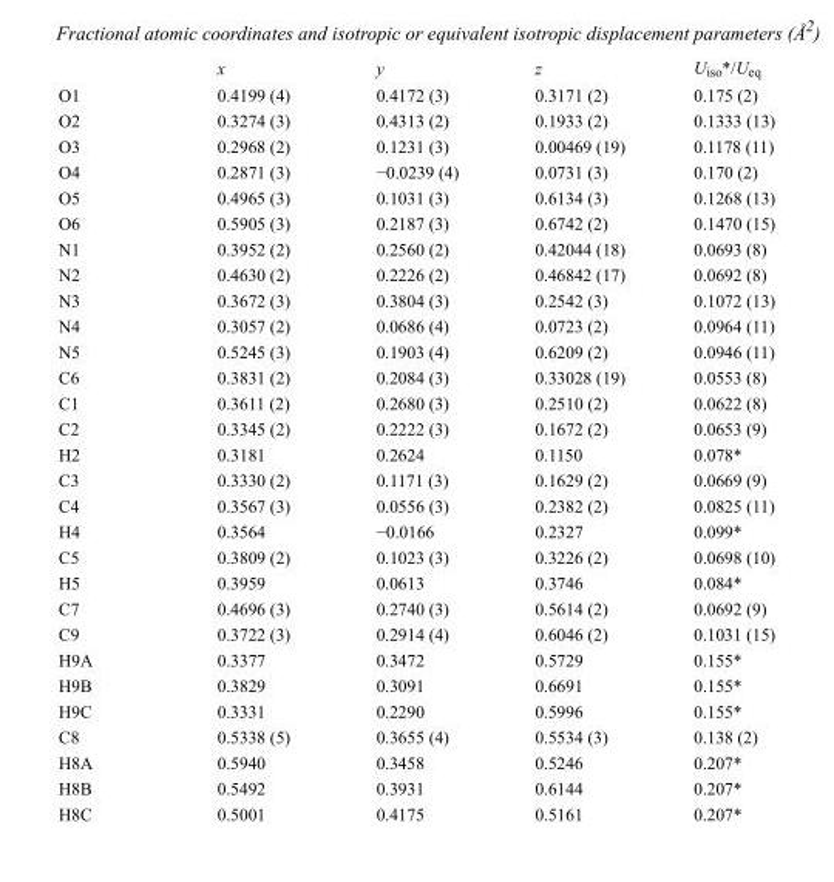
<table><thead><tr><td></td><td>x</td><td>y</td><td>z</td><td>U<sub>iso</sub>*/U<sub>eq</sub></td></tr></thead><tbody><tr><td>O1</td><td>0.4199 (4)</td><td>0.4172 (3)</td><td>0.3171 (2)</td><td>0.175 (2)</td></tr><tr><td>O2</td><td>0.3274 (3)</td><td>0.4313 (2)</td><td>0.1933 (2)</td><td>0.1333 (13)</td></tr><tr><td>O3</td><td>0.2968 (2)</td><td>0.1231 (3)</td><td>0.00469 (19)</td><td>0.1178 (11)</td></tr><tr><td>O4</td><td>0.2871 (3)</td><td>−0.0239 (4)</td><td>0.0731 (3)</td><td>0.170 (2)</td></tr><tr><td>O5</td><td>0.4965 (3)</td><td>0.1031 (3)</td><td>0.6134 (3)</td><td>0.1268 (13)</td></tr><tr><td>O6</td><td>0.5905 (3)</td><td>0.2187 (3)</td><td>0.6742 (2)</td><td>0.1470 (15)</td></tr><tr><td>N1</td><td>0.3952 (2)</td><td>0.2560 (2)</td><td>0.42044 (18)</td><td>0.0693 (8)</td></tr><tr><td>N2</td><td>0.4630 (2)</td><td>0.2226 (2)</td><td>0.46842 (17)</td><td>0.0692 (8)</td></tr><tr><td>N3</td><td>0.3672 (3)</td><td>0.3804 (3)</td><td>0.2542 (3)</td><td>0.1072 (13)</td></tr><tr><td>N4</td><td>0.3057 (2)</td><td>0.0686 (4)</td><td>0.0723 (2)</td><td>0.0964 (11)</td></tr><tr><td>N5</td><td>0.5245 (3)</td><td>0.1903 (4)</td><td>0.6209 (2)</td><td>0.0946 (11)</td></tr><tr><td>C6</td><td>0.3831 (2)</td><td>0.2084 (3)</td><td>0.33028 (19)</td><td>0.0553 (8)</td></tr><tr><td>C1</td><td>0.3611 (2)</td><td>0.2680 (3)</td><td>0.2510 (2)</td><td>0.0622 (8)</td></tr><tr><td>C2</td><td>0.3345 (2)</td><td>0.2222 (3)</td><td>0.1672 (2)</td><td>0.0653 (9)</td></tr><tr><td>H2</td><td>0.3181</td><td>0.2624</td><td>0.1150</td><td>0.078*</td></tr><tr><td>C3</td><td>0.3330 (2)</td><td>0.1171 (3)</td><td>0.1629 (2)</td><td>0.0669 (9)</td></tr><tr><td>C4</td><td>0.3567 (3)</td><td>0.0556 (3)</td><td>0.2382 (2)</td><td>0.0825 (11)</td></tr><tr><td>H4</td><td>0.3564</td><td>−0.0166</td><td>0.2327</td><td>0.099*</td></tr><tr><td>C5</td><td>0.3809 (2)</td><td>0.1023 (3)</td><td>0.3226 (2)</td><td>0.0698 (10)</td></tr><tr><td>H5</td><td>0.3959</td><td>0.0613</td><td>0.3746</td><td>0.084*</td></tr><tr><td>C7</td><td>0.4696 (3)</td><td>0.2740 (3)</td><td>0.5614 (2)</td><td>0.0692 (9)</td></tr><tr><td>C9</td><td>0.3722 (3)</td><td>0.2914 (4)</td><td>0.6046 (2)</td><td>0.1031 (15)</td></tr><tr><td>H9A</td><td>0.3377</td><td>0.3472</td><td>0.5729</td><td>0.155*</td></tr><tr><td>H9B</td><td>0.3829</td><td>0.3091</td><td>0.6691</td><td>0.155*</td></tr><tr><td>H9C</td><td>0.3331</td><td>0.2290</td><td>0.5996</td><td>0.155*</td></tr><tr><td>C8</td><td>0.5338 (5)</td><td>0.3655 (4)</td><td>0.5534 (3)</td><td>0.138 (2)</td></tr><tr><td>H8A</td><td>0.5940</td><td>0.3458</td><td>0.5246</td><td>0.207*</td></tr><tr><td>H8B</td><td>0.5492</td><td>0.3931</td><td>0.6144</td><td>0.207*</td></tr><tr><td>H8C</td><td>0.5001</td><td>0.4175</td><td>0.5161</td><td>0.207*</td></tr></tbody></table>